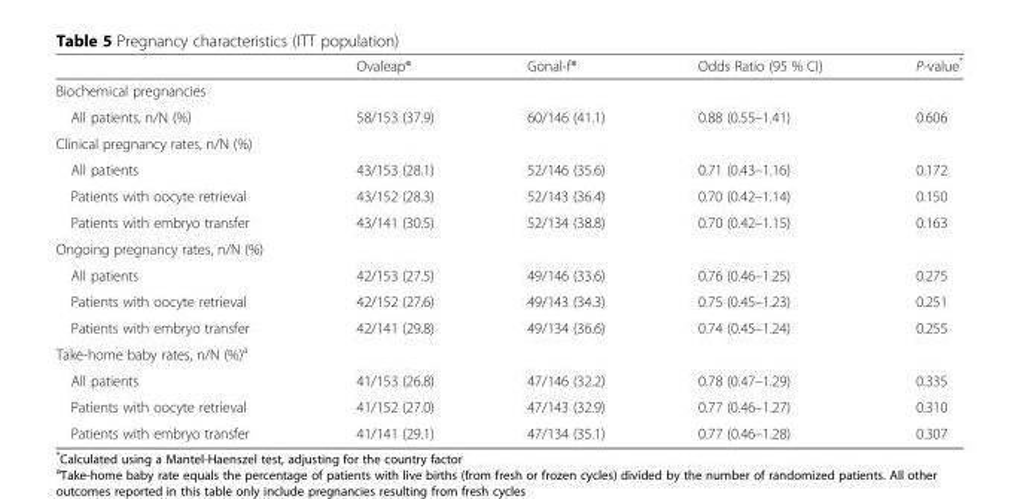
<table><thead><tr><td></td><td>Ovaleap®</td><td>Gonal-f®</td><td>Odds Ratio (95 % CI)</td><td>P-value*</td></tr></thead><tbody><tr><td colspan="5">Biochemical pregnancies</td></tr><tr><td>All patients, n/N (%)</td><td>58/153 (37.9)</td><td>60/146 (41.1)</td><td>0.88 (0.55–1.41)</td><td>0.606</td></tr><tr><td colspan="5">Clinical pregnancy rates, n/N (%)</td></tr><tr><td>All patients</td><td>43/153 (28.1)</td><td>52/146 (35.6)</td><td>0.71 (0.43–1.16)</td><td>0.172</td></tr><tr><td>Patients with oocyte retrieval</td><td>43/152 (28.3)</td><td>52/143 (36.4)</td><td>0.70 (0.42–1.14)</td><td>0.150</td></tr><tr><td>Patients with embryo transfer</td><td>43/141 (30.5)</td><td>52/134 (38.8)</td><td>0.70 (0.42–1.15)</td><td>0.163</td></tr><tr><td colspan="5">Ongoing pregnancy rates, n/N (%)</td></tr><tr><td>All patients</td><td>42/153 (27.5)</td><td>49/146 (33.6)</td><td>0.76 (0.46–1.25)</td><td>0.275</td></tr><tr><td>Patients with oocyte retrieval</td><td>42/152 (27.6)</td><td>49/143 (34.3)</td><td>0.75 (0.45–1.23)</td><td>0.251</td></tr><tr><td>Patients with embryo transfer</td><td>42/141 (29.8)</td><td>49/134 (36.6)</td><td>0.74 (0.45–1.24)</td><td>0.255</td></tr><tr><td colspan="5">Take-home baby rates, n/N (%)<sup>a</sup></td></tr><tr><td>All patients</td><td>41/153 (26.8)</td><td>47/146 (32.2)</td><td>0.78 (0.47–1.29)</td><td>0.335</td></tr><tr><td>Patients with oocyte retrieval</td><td>41/152 (27.0)</td><td>47/143 (32.9)</td><td>0.77 (0.46–1.27)</td><td>0.310</td></tr><tr><td>Patients with embryo transfer</td><td>41/141 (29.1)</td><td>47/134 (35.1)</td><td>0.77 (0.46–1.28)</td><td>0.307</td></tr></tbody></table>